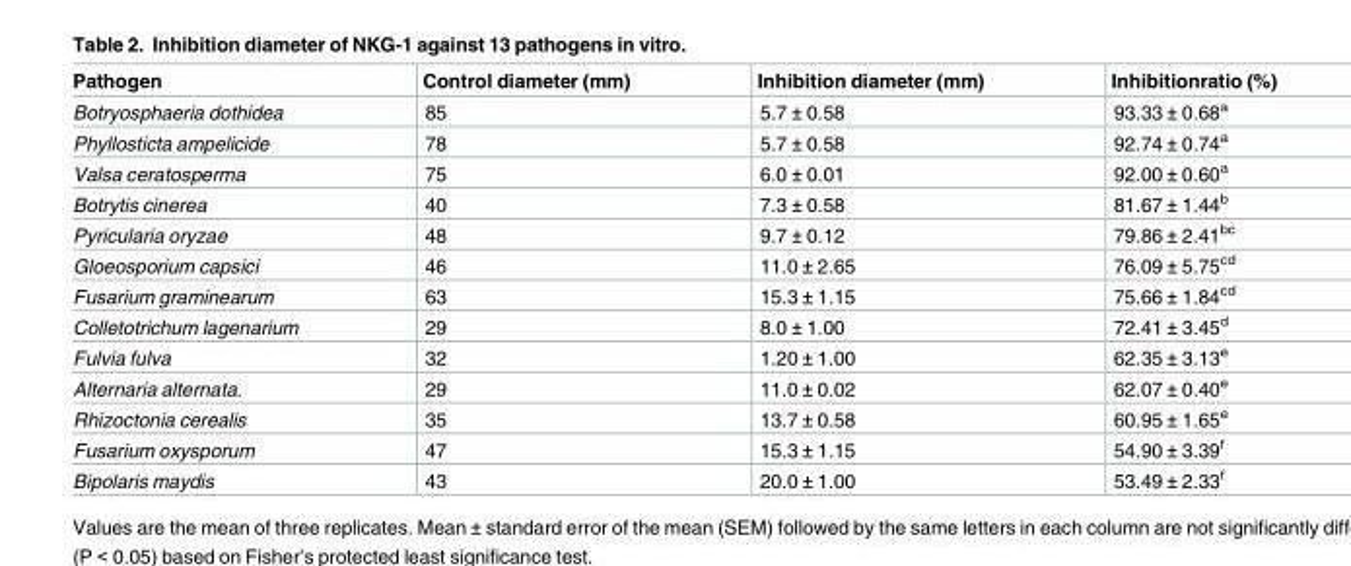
<table><thead><tr><td>Pathogen</td><td>Control diameter (mm)</td><td>Inhibition diameter (mm)</td><td>Inhibitionratio (%)</td></tr></thead><tbody><tr><td>Botryosphaeria dothidea</td><td>85</td><td>5.7 ± 0.58</td><td>93.33 ± 0.68<sup>a</sup></td></tr><tr><td>Phyllosticta ampelicide</td><td>78</td><td>5.7 ± 0.58</td><td>92.74 ± 0.74<sup>a</sup></td></tr><tr><td>Valsa ceratosperma</td><td>75</td><td>6.0 ± 0.01</td><td>92.00 ± 0.60<sup>a</sup></td></tr><tr><td>Botrytis cinerea</td><td>40</td><td>7.3 ± 0.58</td><td>81.67 ± 1.44<sup>b</sup></td></tr><tr><td>Pyricularia oryzae</td><td>48</td><td>9.7 ± 0.12</td><td>79.86 ± 2.41<sup>bc</sup></td></tr><tr><td>Gloeosporium capsici</td><td>46</td><td>11.0 ± 2.65</td><td>76.09 ± 5.75<sup>cd</sup></td></tr><tr><td>Fusarium graminearum</td><td>63</td><td>15.3 ± 1.15</td><td>75.66 ± 1.84<sup>cd</sup></td></tr><tr><td>Colletotrichum lagenarium</td><td>29</td><td>8.0 ± 1.00</td><td>72.41 ± 3.45<sup>d</sup></td></tr><tr><td>Fulvia fulva</td><td>32</td><td>1.20 ± 1.00</td><td>62.35 ± 3.13<sup>e</sup></td></tr><tr><td>Alternaria alternata.</td><td>29</td><td>11.0 ± 0.02</td><td>62.07 ± 0.40<sup>e</sup></td></tr><tr><td>Rhizoctonia cerealis</td><td>35</td><td>13.7 ± 0.58</td><td>60.95 ± 1.65<sup>e</sup></td></tr><tr><td>Fusarium oxysporum</td><td>47</td><td>15.3 ± 1.15</td><td>54.90 ± 3.39<sup>f</sup></td></tr><tr><td>Bipolaris maydis</td><td>43</td><td>20.0 ± 1.00</td><td>53.49 ± 2.33<sup>f</sup></td></tr></tbody></table>